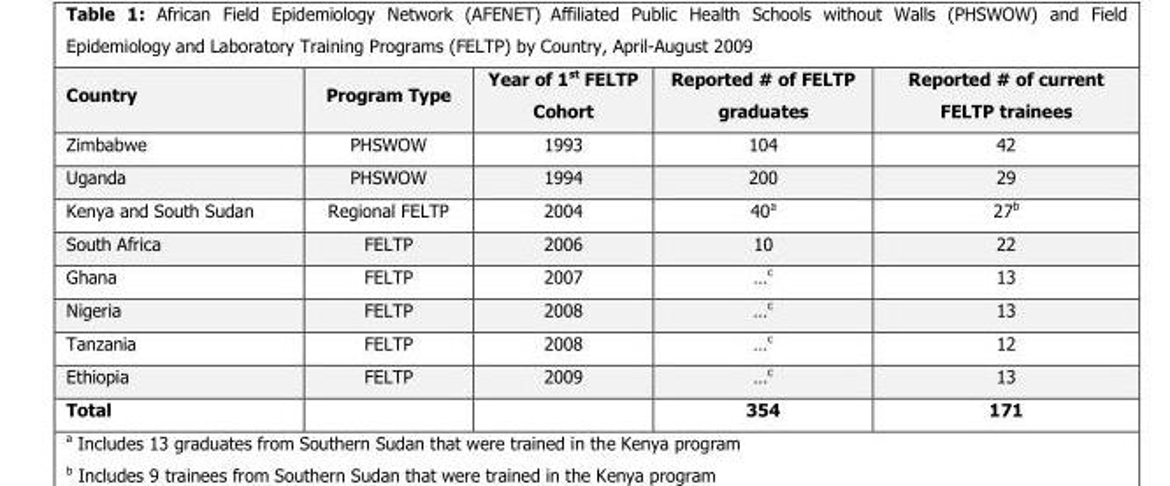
<table><thead><tr><td>Country</td><td>Program Type</td><td>Year of 1<sup>st</sup> FELTP Cohort</td><td>Reported # of FELTP graduates</td><td>Reported # of current FELTP trainees</td></tr></thead><tbody><tr><td>Zimbabwe</td><td>PHSWOW</td><td>1993</td><td>104</td><td>42</td></tr><tr><td>Uganda</td><td>PHSWOW</td><td>1994</td><td>200</td><td>29</td></tr><tr><td>Kenya and South Sudan</td><td>Regional FELTP</td><td>2004</td><td>40<sup>a</sup></td><td>27<sup>b</sup></td></tr><tr><td>South Africa</td><td>FELTP</td><td>2006</td><td>10</td><td>22</td></tr><tr><td>Ghana</td><td>FELTP</td><td>2007</td><td>…<sup>c</sup></td><td>13</td></tr><tr><td>Nigeria</td><td>FELTP</td><td>2008</td><td>…<sup>c</sup></td><td>13</td></tr><tr><td>Tanzania</td><td>FELTP</td><td>2008</td><td>…<sup>c</sup></td><td>12</td></tr><tr><td>Ethiopia</td><td>FELTP</td><td>2009</td><td>…<sup>c</sup></td><td>13</td></tr><tr><td>Total</td><td></td><td></td><td>354</td><td>171</td></tr></tbody></table>